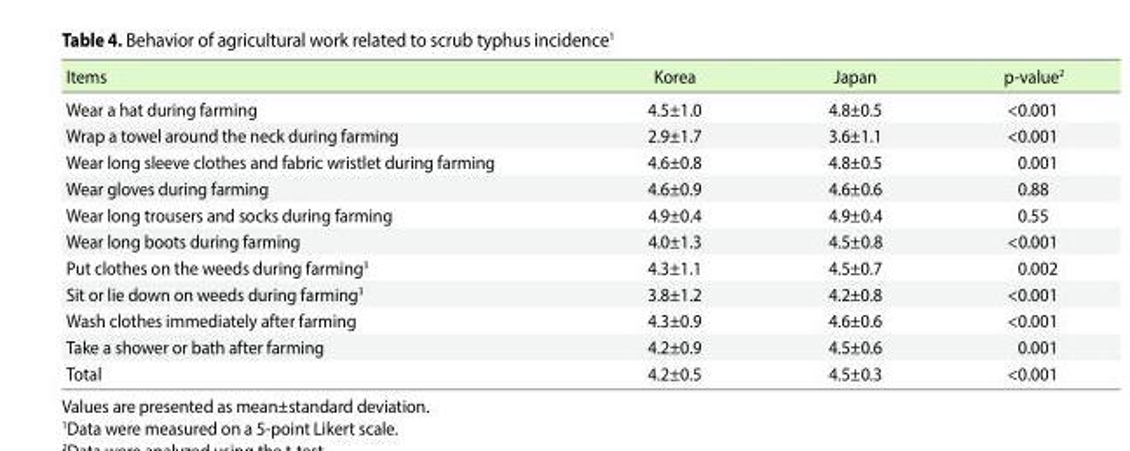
<table><thead><tr><td>Items</td><td>Korea</td><td>Japan</td><td>p-value<sup>2</sup></td></tr></thead><tbody><tr><td>Wear a hat during farming</td><td>4.5±1.0</td><td>4.8±0.5</td><td>&lt;0.001</td></tr><tr><td>Wrap a towel around the neck during farming</td><td>2.9±1.7</td><td>3.6±1.1</td><td>&lt;0.001</td></tr><tr><td>Wear long sleeve clothes and fabric wristlet during farming</td><td>4.6±0.8</td><td>4.8±0.5</td><td>0.001</td></tr><tr><td>Wear gloves during farming</td><td>4.6±0.9</td><td>4.6±0.6</td><td>0.88</td></tr><tr><td>Wear long trousers and socks during farming</td><td>4.9±0.4</td><td>4.9±0.4</td><td>0.55</td></tr><tr><td>Wear long boots during farming</td><td>4.0±1.3</td><td>4.5±0.8</td><td>&lt;0.001</td></tr><tr><td>Put clothes on the weeds during farming<sup>3</sup></td><td>4.3±1.1</td><td>4.5±0.7</td><td>0.002</td></tr><tr><td>Sit or lie down on weeds during farming<sup>3</sup></td><td>3.8±1.2</td><td>4.2±0.8</td><td>&lt;0.001</td></tr><tr><td>Wash clothes immediately after farming</td><td>4.3±0.9</td><td>4.6±0.6</td><td>&lt;0.001</td></tr><tr><td>Take a shower or bath after farming</td><td>4.2±0.9</td><td>4.5±0.6</td><td>0.001</td></tr><tr><td>Total</td><td>4.2±0.5</td><td>4.5±0.3</td><td>&lt;0.001</td></tr></tbody></table>